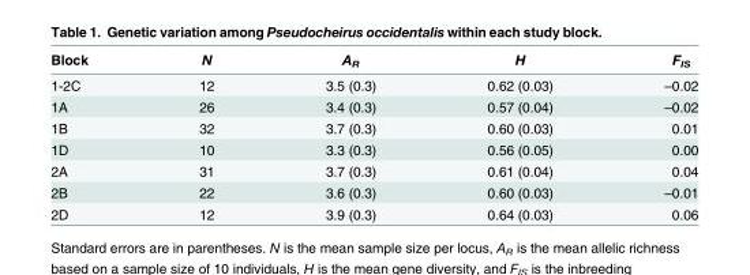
<table><thead><tr><td>Block</td><td>N</td><td>A<sub>R</sub></td><td>H</td><td>F<sub>IS</sub></td></tr></thead><tbody><tr><td>1-2C</td><td>12</td><td>3.5 (0.3)</td><td>0.62 (0.03)</td><td>–0.02</td></tr><tr><td>1A</td><td>26</td><td>3.4 (0.3)</td><td>0.57 (0.04)</td><td>–0.02</td></tr><tr><td>1B</td><td>32</td><td>3.7 (0.3)</td><td>0.60 (0.03)</td><td>0.01</td></tr><tr><td>1D</td><td>10</td><td>3.3 (0.3)</td><td>0.56 (0.05)</td><td>0.00</td></tr><tr><td>2A</td><td>31</td><td>3.7 (0.3)</td><td>0.61 (0.04)</td><td>0.04</td></tr><tr><td>2B</td><td>22</td><td>3.6 (0.3)</td><td>0.60 (0.03)</td><td>–0.01</td></tr><tr><td>2D</td><td>12</td><td>3.9 (0.3)</td><td>0.64 (0.03)</td><td>0.06</td></tr></tbody></table>